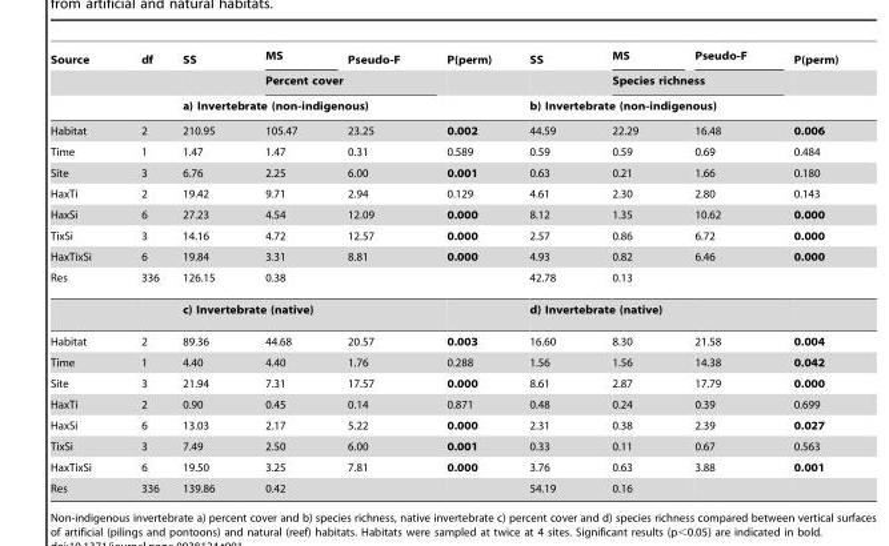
<table><thead><tr><td rowspan="3">Source</td><td rowspan="3">df</td><td rowspan="2">SS</td><td>MS</td><td>Pseudo-F</td><td rowspan="2">P(perm)</td><td rowspan="2">SS</td><td>MS</td><td>Pseudo-F</td><td rowspan="2">P(perm)</td></tr><tr><td colspan="2">Percent cover</td><td colspan="2">Species richness</td></tr><tr><td colspan="4">a) Invertebrate (non-indigenous)</td><td colspan="4">b) Invertebrate (non-indigenous)</td></tr></thead><tbody><tr><td>Habitat</td><td>2</td><td>210.95</td><td>105.47</td><td>23.25</td><td>0.002</td><td>44.59</td><td>22.29</td><td>16.48</td><td>0.006</td></tr><tr><td>Time</td><td>1</td><td>1.47</td><td>1.47</td><td>0.31</td><td>0.589</td><td>0.59</td><td>0.59</td><td>0.69</td><td>0.484</td></tr><tr><td>Site</td><td>3</td><td>6.76</td><td>2.25</td><td>6.00</td><td>0.001</td><td>0.63</td><td>0.21</td><td>1.66</td><td>0.180</td></tr><tr><td>HaxTi</td><td>2</td><td>19.42</td><td>9.71</td><td>2.94</td><td>0.129</td><td>4.61</td><td>2.30</td><td>2.80</td><td>0.143</td></tr><tr><td>HaxSi</td><td>6</td><td>27.23</td><td>4.54</td><td>12.09</td><td>0.000</td><td>8.12</td><td>1.35</td><td>10.62</td><td>0.000</td></tr><tr><td>TixSi</td><td>3</td><td>14.16</td><td>4.72</td><td>12.57</td><td>0.000</td><td>2.57</td><td>0.86</td><td>6.72</td><td>0.000</td></tr><tr><td>HaxTixSi</td><td>6</td><td>19.84</td><td>3.31</td><td>8.81</td><td>0.000</td><td>4.93</td><td>0.82</td><td>6.46</td><td>0.000</td></tr><tr><td rowspan="2">Res</td><td>336</td><td>126.15</td><td>0.38</td><td></td><td></td><td>42.78</td><td>0.13</td><td></td><td></td></tr><tr><td></td><td colspan="3">c) Invertebrate (native)</td><td></td><td colspan="3">d) Invertebrate (native)</td><td></td></tr><tr><td>Habitat</td><td>2</td><td>89.36</td><td>44.68</td><td>20.57</td><td>0.003</td><td>16.60</td><td>8.30</td><td>21.58</td><td>0.004</td></tr><tr><td>Time</td><td>1</td><td>4.40</td><td>4.40</td><td>1.76</td><td>0.288</td><td>1.56</td><td>1.56</td><td>14.38</td><td>0.042</td></tr><tr><td>Site</td><td>3</td><td>21.94</td><td>7.31</td><td>17.57</td><td>0.000</td><td>8.61</td><td>2.87</td><td>17.79</td><td>0.000</td></tr><tr><td>HaxTi</td><td>2</td><td>0.90</td><td>0.45</td><td>0.14</td><td>0.871</td><td>0.48</td><td>0.24</td><td>0.39</td><td>0.699</td></tr><tr><td>HaxSi</td><td>6</td><td>13.03</td><td>2.17</td><td>5.22</td><td>0.000</td><td>2.31</td><td>0.38</td><td>2.39</td><td>0.027</td></tr><tr><td>TixSi</td><td>3</td><td>7.49</td><td>2.50</td><td>6.00</td><td>0.001</td><td>0.33</td><td>0.11</td><td>0.67</td><td>0.563</td></tr><tr><td>HaxTixSi</td><td>6</td><td>19.50</td><td>3.25</td><td>7.81</td><td>0.000</td><td>3.76</td><td>0.63</td><td>3.88</td><td>0.001</td></tr><tr><td>Res</td><td>336</td><td>139.86</td><td>0.42</td><td></td><td></td><td>54.19</td><td>0.16</td><td></td><td></td></tr></tbody></table>